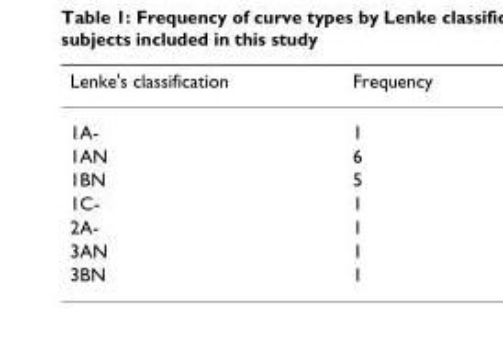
<table><thead><tr><td>Lenke&#x27;s classification</td><td>Frequency</td></tr></thead><tbody><tr><td>1A-</td><td>1</td></tr><tr><td>1AN</td><td>6</td></tr><tr><td>1BN</td><td>5</td></tr><tr><td>1C-</td><td>1</td></tr><tr><td>2A-</td><td>1</td></tr><tr><td>3AN</td><td>1</td></tr><tr><td>3BN</td><td>1</td></tr></tbody></table>